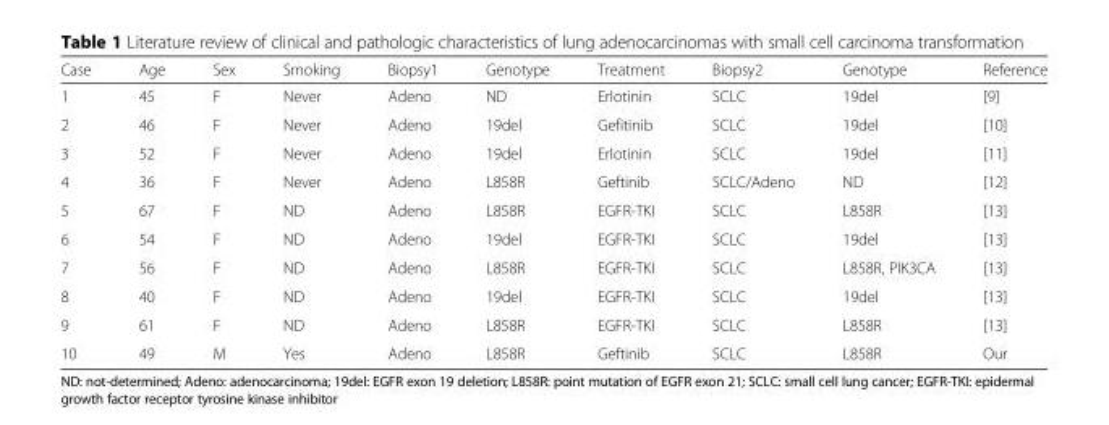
<table><thead><tr><td>Case</td><td>Age</td><td>Sex</td><td>Smoking</td><td>Biopsy1</td><td>Genotype</td><td>Treatment</td><td>Biopsy2</td><td>Genotype</td><td>Reference</td></tr></thead><tbody><tr><td>1</td><td>45</td><td>F</td><td>Never</td><td>Adeno</td><td>ND</td><td>Erlotinin</td><td>SCLC</td><td>19del</td><td>[9]</td></tr><tr><td>2</td><td>46</td><td>F</td><td>Never</td><td>Adeno</td><td>19del</td><td>Gefitinib</td><td>SCLC</td><td>19del</td><td>[10]</td></tr><tr><td>3</td><td>52</td><td>F</td><td>Never</td><td>Adeno</td><td>19del</td><td>Erlotinin</td><td>SCLC</td><td>19del</td><td>[11]</td></tr><tr><td>4</td><td>36</td><td>F</td><td>Never</td><td>Adeno</td><td>L858R</td><td>Geftinib</td><td>SCLC/Adeno</td><td>ND</td><td>[12]</td></tr><tr><td>5</td><td>67</td><td>F</td><td>ND</td><td>Adeno</td><td>L858R</td><td>EGFR-TKI</td><td>SCLC</td><td>L858R</td><td>[13]</td></tr><tr><td>6</td><td>54</td><td>F</td><td>ND</td><td>Adeno</td><td>19del</td><td>EGFR-TKI</td><td>SCLC</td><td>19del</td><td>[13]</td></tr><tr><td>7</td><td>56</td><td>F</td><td>ND</td><td>Adeno</td><td>L858R</td><td>EGFR-TKI</td><td>SCLC</td><td>L858R, PIK3CA</td><td>[13]</td></tr><tr><td>8</td><td>40</td><td>F</td><td>ND</td><td>Adeno</td><td>19del</td><td>EGFR-TKI</td><td>SCLC</td><td>19del</td><td>[13]</td></tr><tr><td>9</td><td>61</td><td>F</td><td>ND</td><td>Adeno</td><td>L858R</td><td>EGFR-TKI</td><td>SCLC</td><td>L858R</td><td>[13]</td></tr><tr><td>10</td><td>49</td><td>M</td><td>Yes</td><td>Adeno</td><td>L858R</td><td>Geftinib</td><td>SCLC</td><td>L858R</td><td>Our</td></tr></tbody></table>